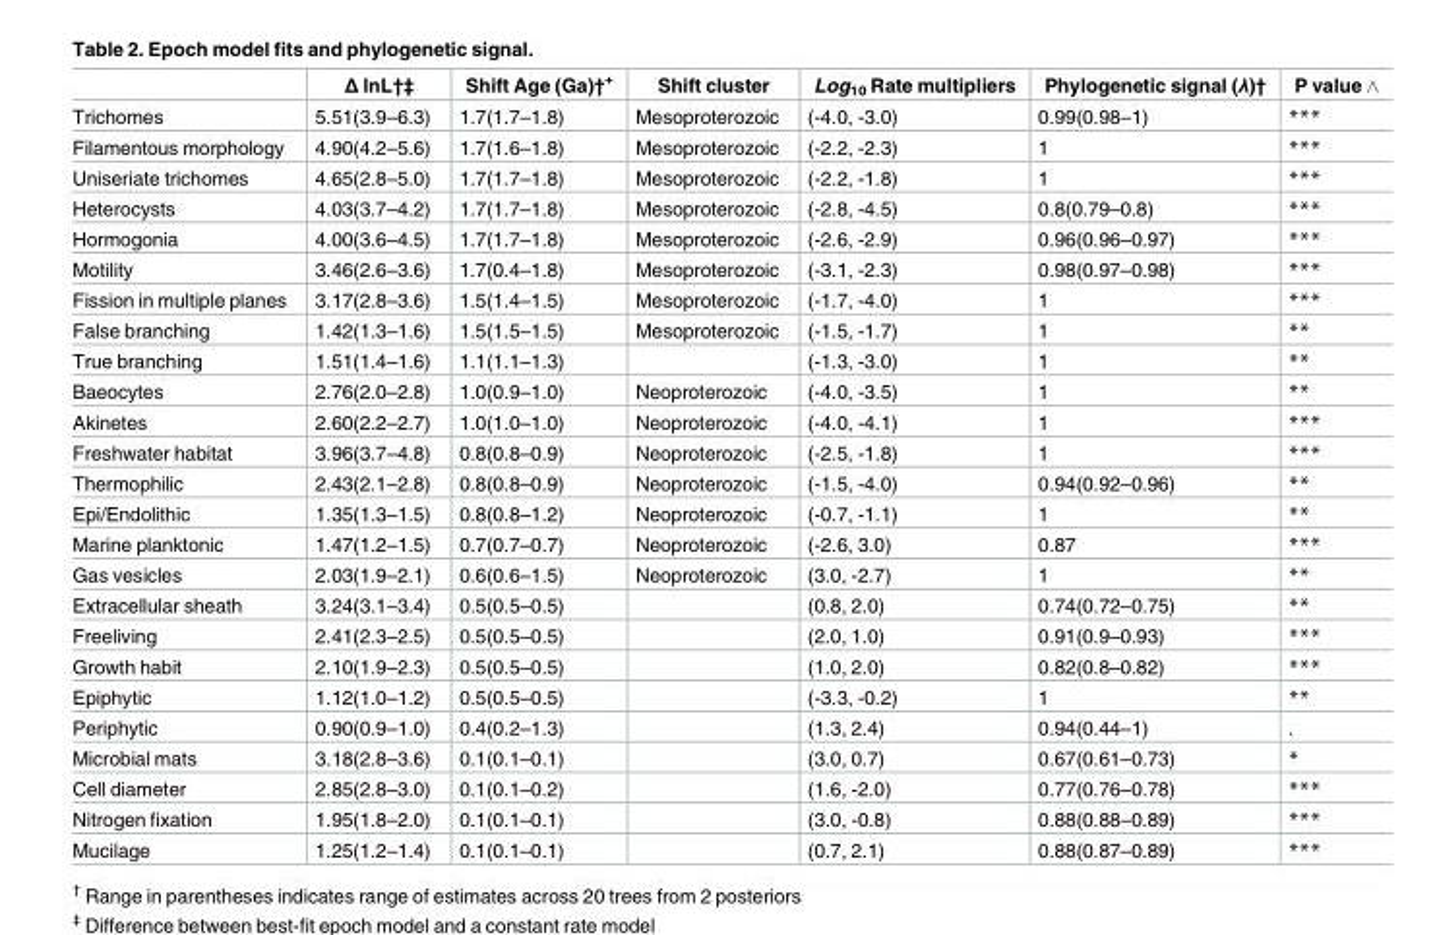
<table><thead><tr><td></td><td>Δ lnL†‡</td><td>Shift Age (Ga)†<sup>+</sup></td><td>Shift cluster</td><td>Log<sub>10</sub> Rate multipliers</td><td>Phylogenetic signal (λ)†</td><td>P value</td></tr></thead><tbody><tr><td>Trichomes</td><td>5.51(3.9–6.3)</td><td>1.7(1.7–1.8)</td><td>Mesoproterozoic</td><td>(-4.0, -3.0)</td><td>0.99(0.98–1)</td><td>***</td></tr><tr><td>Filamentous morphology</td><td>4.90(4.2–5.6)</td><td>1.7(1.6–1.8)</td><td>Mesoproterozoic</td><td>(-2.2, -2.3)</td><td>1</td><td>***</td></tr><tr><td>Uniseriate trichomes</td><td>4.65(2.8–5.0)</td><td>1.7(1.7–1.8)</td><td>Mesoproterozoic</td><td>(-2.2, -1.8)</td><td>1</td><td>***</td></tr><tr><td>Heterocysts</td><td>4.03(3.7–4.2)</td><td>1.7(1.7–1.8)</td><td>Mesoproterozoic</td><td>(-2.8, -4.5)</td><td>0.8(0.79–0.8)</td><td>***</td></tr><tr><td>Hormogonia</td><td>4.00(3.6–4.5)</td><td>1.7(1.7–1.8)</td><td>Mesoproterozoic</td><td>(-2.6, -2.9)</td><td>0.96(0.96–0.97)</td><td>***</td></tr><tr><td>Motility</td><td>3.46(2.6–3.6)</td><td>1.7(0.4–1.8)</td><td>Mesoproterozoic</td><td>(-3.1, -2.3)</td><td>0.98(0.97–0.98)</td><td>***</td></tr><tr><td>Fission in multiple planes</td><td>3.17(2.8–3.6)</td><td>1.5(1.4–1.5)</td><td>Mesoproterozoic</td><td>(-1.7, -4.0)</td><td>1</td><td>***</td></tr><tr><td>False branching</td><td>1.42(1.3–1.6)</td><td>1.5(1.5–1.5)</td><td>Mesoproterozoic</td><td>(-1.5, -1.7)</td><td>1</td><td>**</td></tr><tr><td>True branching</td><td>1.51(1.4–1.6)</td><td>1.1(1.1–1.3)</td><td></td><td>(-1.3, -3.0)</td><td>1</td><td>**</td></tr><tr><td>Baeocytes</td><td>2.76(2.0–2.8)</td><td>1.0(0.9–1.0)</td><td>Neoproterozoic</td><td>(-4.0, -3.5)</td><td>1</td><td>**</td></tr><tr><td>Akinetes</td><td>2.60(2.2–2.7)</td><td>1.0(1.0–1.0)</td><td>Neoproterozoic</td><td>(-4.0, -4.1)</td><td>1</td><td>***</td></tr><tr><td>Freshwater habitat</td><td>3.96(3.7–4.8)</td><td>0.8(0.8–0.9)</td><td>Neoproterozoic</td><td>(-2.5, -1.8)</td><td>1</td><td>***</td></tr><tr><td>Thermophilic</td><td>2.43(2.1–2.8)</td><td>0.8(0.8–0.9)</td><td>Neoproterozoic</td><td>(-1.5, -4.0)</td><td>0.94(0.92–0.96)</td><td>**</td></tr><tr><td>Epi/Endolithic</td><td>1.35(1.3–1.5)</td><td>0.8(0.8–1.2)</td><td>Neoproterozoic</td><td>(-0.7, -1.1)</td><td>1</td><td>**</td></tr><tr><td>Marine planktonic</td><td>1.47(1.2–1.5)</td><td>0.7(0.7–0.7)</td><td>Neoproterozoic</td><td>(-2.6, 3.0)</td><td>0.87</td><td>***</td></tr><tr><td>Gas vesicles</td><td>2.03(1.9–2.1)</td><td>0.6(0.6–1.5)</td><td>Neoproterozoic</td><td>(3.0, -2.7)</td><td>1</td><td>**</td></tr><tr><td>Extracellular sheath</td><td>3.24(3.1–3.4)</td><td>0.5(0.5–0.5)</td><td></td><td>(0.8, 2.0)</td><td>0.74(0.72–0.75)</td><td>**</td></tr><tr><td>Freeliving</td><td>2.41(2.3–2.5)</td><td>0.5(0.5–0.5)</td><td></td><td>(2.0, 1.0)</td><td>0.91(0.9–0.93)</td><td>***</td></tr><tr><td>Growth habit</td><td>2.10(1.9–2.3)</td><td>0.5(0.5–0.5)</td><td></td><td>(1.0, 2.0)</td><td>0.82(0.8–0.82)</td><td>***</td></tr><tr><td>Epiphytic</td><td>1.12(1.0–1.2)</td><td>0.5(0.5–0.5)</td><td></td><td>(-3.3, -0.2)</td><td>1</td><td>**</td></tr><tr><td>Periphytic</td><td>0.90(0.9–1.0)</td><td>0.4(0.2–1.3)</td><td></td><td>(1.3, 2.4)</td><td>0.94(0.44–1)</td><td>.</td></tr><tr><td>Microbial mats</td><td>3.18(2.8–3.6)</td><td>0.1(0.1–0.1)</td><td></td><td>(3.0, 0.7)</td><td>0.67(0.61–0.73)</td><td>*</td></tr><tr><td>Cell diameter</td><td>2.85(2.8–3.0)</td><td>0.1(0.1–0.2)</td><td></td><td>(1.6, -2.0)</td><td>0.77(0.76–0.78)</td><td>***</td></tr><tr><td>Nitrogen fixation</td><td>1.95(1.8–2.0)</td><td>0.1(0.1–0.1)</td><td></td><td>(3.0, -0.8)</td><td>0.88(0.88–0.89)</td><td>***</td></tr><tr><td>Mucilage</td><td>1.25(1.2–1.4)</td><td>0.1(0.1–0.1)</td><td></td><td>(0.7, 2.1)</td><td>0.88(0.87–0.89)</td><td>***</td></tr></tbody></table>